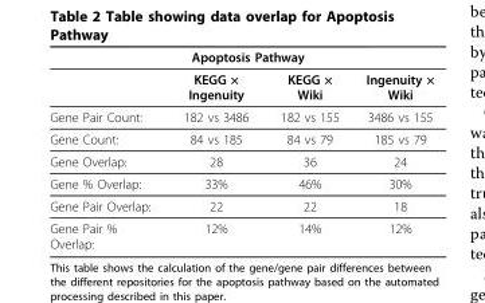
<table><thead><tr><td colspan="4">Apoptosis Pathway</td></tr><tr><td></td><td>KEGG × Ingenuity</td><td>KEGG × Wiki</td><td>Ingenuity × Wiki</td></tr></thead><tbody><tr><td>Gene Pair Count:</td><td>182 vs 3486</td><td>182 vs 155</td><td>3486 vs 155</td></tr><tr><td>Gene Count:</td><td>84 vs 185</td><td>84 vs 79</td><td>185 vs 79</td></tr><tr><td>Gene Overlap:</td><td>28</td><td>36</td><td>24</td></tr><tr><td>Gene % Overlap:</td><td>33%</td><td>46%</td><td>30%</td></tr><tr><td>Gene Pair Overlap:</td><td>22</td><td>22</td><td>18</td></tr><tr><td>Gene Pair % Overlap:</td><td>12%</td><td>14%</td><td>12%</td></tr></tbody></table>